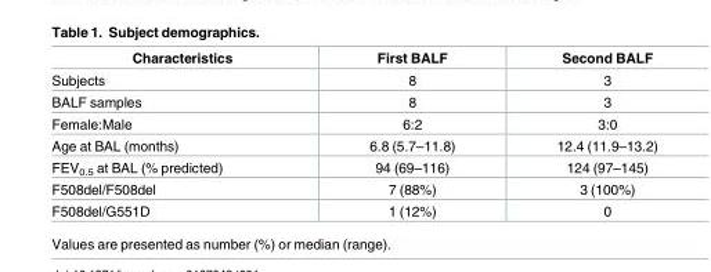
<table><thead><tr><td>Characteristics</td><td>First BALF</td><td>Second BALF</td></tr></thead><tbody><tr><td>Subjects</td><td>8</td><td>3</td></tr><tr><td>BALF samples</td><td>8</td><td>3</td></tr><tr><td>Female:Male</td><td>6:2</td><td>3:0</td></tr><tr><td>Age at BAL (months)</td><td>6.8 (5.7–11.8)</td><td>12.4 (11.9–13.2)</td></tr><tr><td>FEV<sub>0.5</sub> at BAL (% predicted)</td><td>94 (69–116)</td><td>124 (97–145)</td></tr><tr><td>F508del/F508del</td><td>7 (88%)</td><td>3 (100%)</td></tr><tr><td>F508del/G551D</td><td>1 (12%)</td><td>0</td></tr></tbody></table>